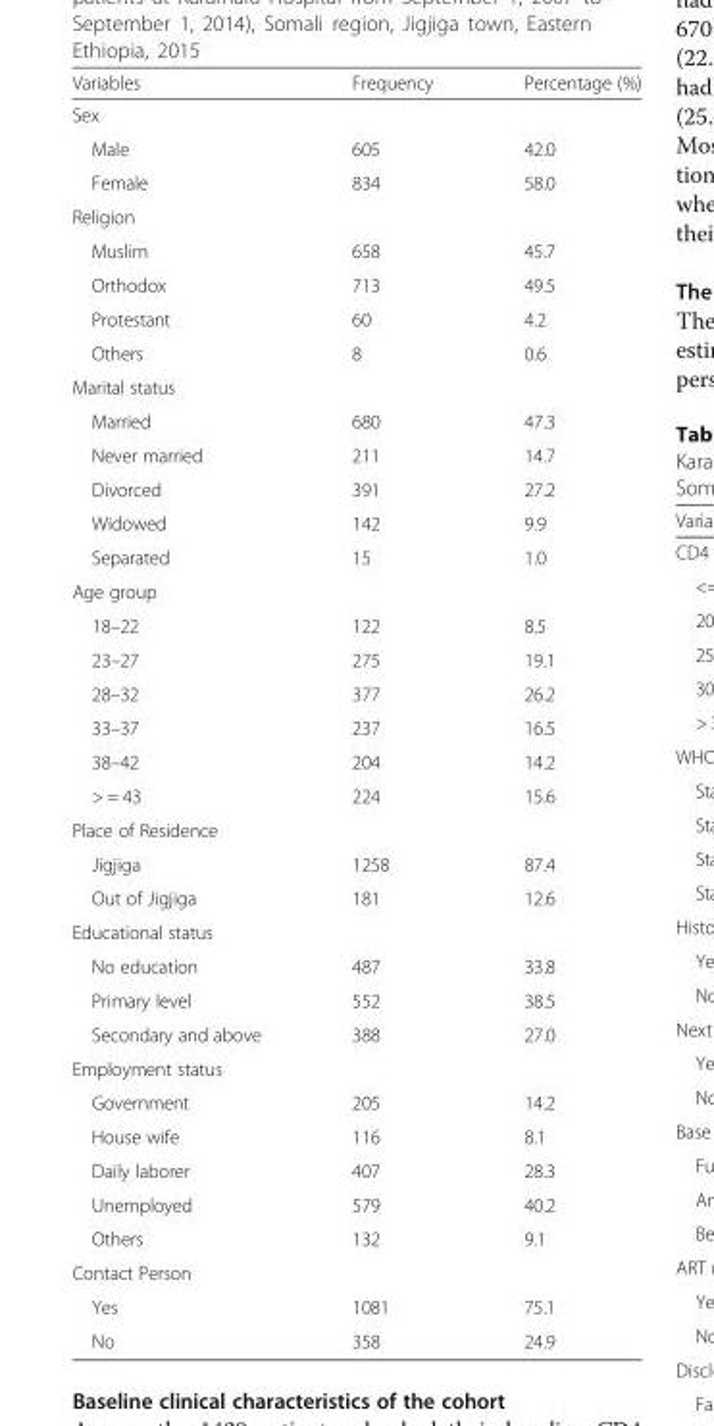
<table><thead><tr><td>Variables</td><td>Frequency</td><td>Percentage (%)</td></tr></thead><tbody><tr><td colspan="3">Sex</td></tr><tr><td>Male</td><td>605</td><td>42.0</td></tr><tr><td>Female</td><td>834</td><td>58.0</td></tr><tr><td colspan="3">Religion</td></tr><tr><td>Muslim</td><td>658</td><td>45.7</td></tr><tr><td>Orthodox</td><td>713</td><td>49.5</td></tr><tr><td>Protestant</td><td>60</td><td>4.2</td></tr><tr><td>Others</td><td>8</td><td>0.6</td></tr><tr><td colspan="3">Marital status</td></tr><tr><td>Married</td><td>680</td><td>47.3</td></tr><tr><td>Never married</td><td>211</td><td>14.7</td></tr><tr><td>Divorced</td><td>391</td><td>27.2</td></tr><tr><td>Widowed</td><td>142</td><td>9.9</td></tr><tr><td>Separated</td><td>15</td><td>1.0</td></tr><tr><td colspan="3">Age group</td></tr><tr><td>18–22</td><td>122</td><td>8.5</td></tr><tr><td>23–27</td><td>275</td><td>19.1</td></tr><tr><td>28–32</td><td>377</td><td>26.2</td></tr><tr><td>33–37</td><td>237</td><td>16.5</td></tr><tr><td>38–42</td><td>204</td><td>14.2</td></tr><tr><td>&gt; = 43</td><td>224</td><td>15.6</td></tr><tr><td colspan="3">Place of Residence</td></tr><tr><td>Jigjiga</td><td>1258</td><td>87.4</td></tr><tr><td>Out of Jigjiga</td><td>181</td><td>12.6</td></tr><tr><td colspan="3">Educational status</td></tr><tr><td>No education</td><td>487</td><td>33.8</td></tr><tr><td>Primary level</td><td>552</td><td>38.5</td></tr><tr><td>Secondary and above</td><td>388</td><td>27.0</td></tr><tr><td colspan="3">Employment status</td></tr><tr><td>Government</td><td>205</td><td>14.2</td></tr><tr><td>House wife</td><td>116</td><td>8.1</td></tr><tr><td>Daily laborer</td><td>407</td><td>28.3</td></tr><tr><td>Unemployed</td><td>579</td><td>40.2</td></tr><tr><td>Others</td><td>132</td><td>9.1</td></tr><tr><td colspan="3">Contact Person</td></tr><tr><td>Yes</td><td>1081</td><td>75.1</td></tr><tr><td>No</td><td>358</td><td>24.9</td></tr></tbody></table>